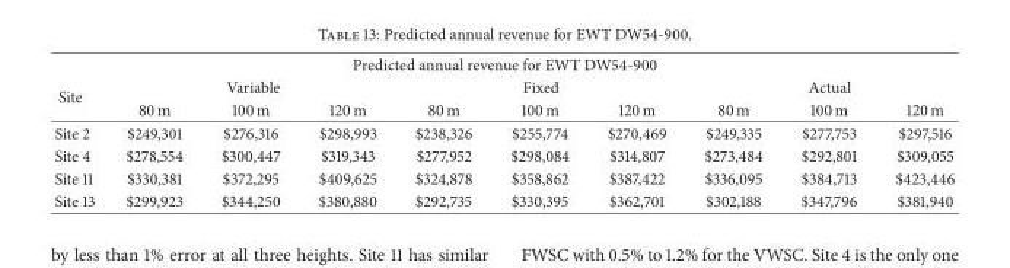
<table><thead><tr><td colspan="10">Predicted annual revenue for EWT DW54-900</td></tr><tr><td rowspan="2">Site</td><td colspan="3">Variable</td><td colspan="3">Fixed</td><td colspan="3">Actual</td></tr><tr><td>80 m</td><td>100 m</td><td>120 m</td><td>80 m</td><td>100 m</td><td>120 m</td><td>80 m</td><td>100 m</td><td>120 m</td></tr></thead><tbody><tr><td>Site 2</td><td>$249,301</td><td>$276,316</td><td>$298,993</td><td>$238,326</td><td>$255,774</td><td>$270,469</td><td>$249,335</td><td>$277,753</td><td>$297,516</td></tr><tr><td>Site 4</td><td>$278,554</td><td>$300,447</td><td>$319,343</td><td>$277,952</td><td>$298,084</td><td>$314,807</td><td>$273,484</td><td>$292,801</td><td>$309,055</td></tr><tr><td>Site 11</td><td>$330,381</td><td>$372,295</td><td>$409,625</td><td>$324,878</td><td>$358,862</td><td>$387,422</td><td>$336,095</td><td>$384,713</td><td>$423,446</td></tr><tr><td>Site 13</td><td>$299,923</td><td>$344,250</td><td>$380,880</td><td>$292,735</td><td>$330,395</td><td>$362,701</td><td>$302,188</td><td>$347,796</td><td>$381,940</td></tr></tbody></table>